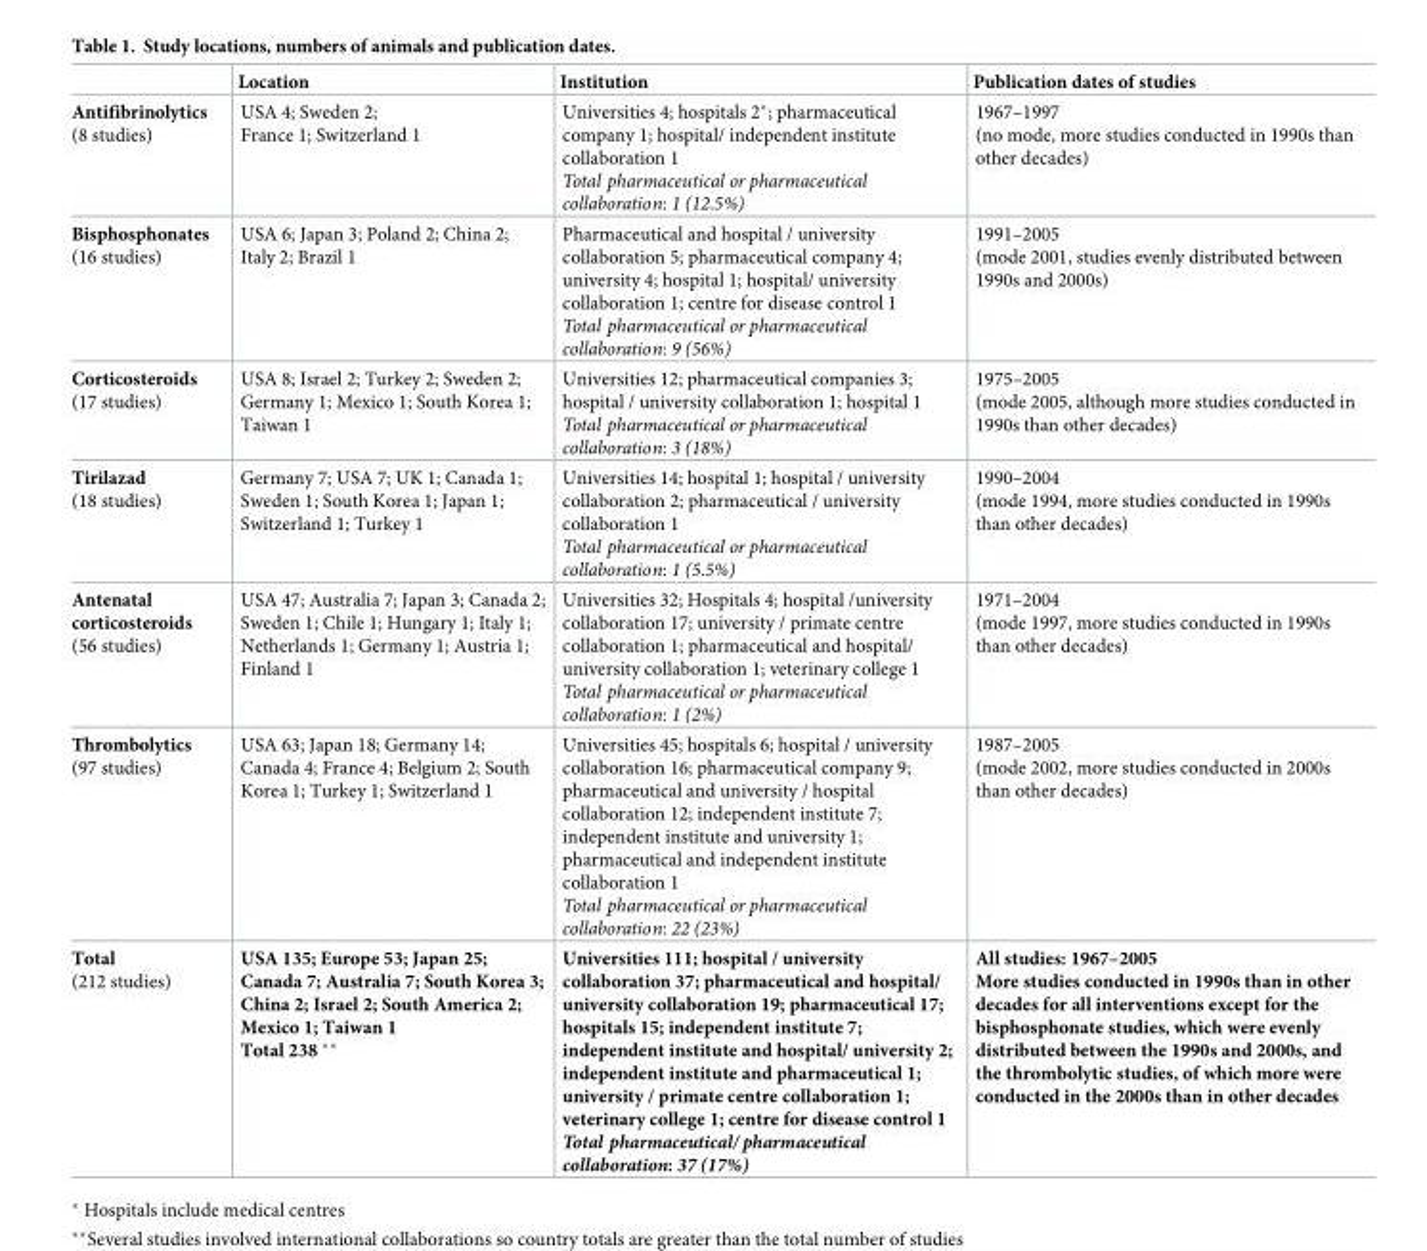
<table><thead><tr><td></td><td>Location</td><td>Institution</td><td>Publication dates of studies</td></tr></thead><tbody><tr><td>Antifibrinolytics (8 studies)</td><td>USA 4; Sweden 2; France 1; Switzerland 1</td><td>Universities 4; hospitals 2*; pharmaceutical company 1; hospital/ independent institute collaboration 1 Total pharmaceutical or pharmaceutical collaboration: 1 (12.5%)</td><td>1967–1997 (no mode, more studies conducted in 1990s than other decades)</td></tr><tr><td>Bisphosphonates (16 studies)</td><td>USA 6; Japan 3; Poland 2; China 2; Italy 2; Brazil 1</td><td>Pharmaceutical and hospital / university collaboration 5; pharmaceutical company 4; university 4; hospital 1; hospital/ university collaboration 1; centre for disease control 1 Total pharmaceutical or pharmaceutical collaboration: 9 (56%)</td><td>1991–2005 (mode 2001, studies evenly distributed between 1990s and 2000s)</td></tr><tr><td>Corticosteroids (17 studies)</td><td>USA 8; Israel 2; Turkey 2; Sweden 2; Germany 1; Mexico 1; South Korea 1; Taiwan 1</td><td>Universities 12; pharmaceutical companies 3; hospital / university collaboration 1; hospital 1 Total pharmaceutical or pharmaceutical collaboration: 3 (18%)</td><td>1975–2005 (mode 2005, although more studies conducted in 1990s than other decades)</td></tr><tr><td>Tirilazad (18 studies)</td><td>Germany 7; USA 7; UK 1; Canada 1; Sweden 1; South Korea 1; Japan 1; Switzerland 1; Turkey 1</td><td>Universities 14; hospital 1; hospital / university collaboration 2; pharmaceutical / university collaboration 1 Total pharmaceutical or pharmaceutical collaboration: 1 (5.5%)</td><td>1990–2004 (mode 1994, more studies conducted in 1990s than other decades)</td></tr><tr><td>Antenatal corticosteroids (56 studies)</td><td>USA 47; Australia 7; Japan 3; Canada 2; Sweden 1; Chile 1; Hungary 1; Italy 1; Netherlands 1; Germany 1; Austria 1; Finland 1</td><td>Universities 32; Hospitals 4; hospital /university collaboration 17; university / primate centre collaboration 1; pharmaceutical and hospital/ university collaboration 1; veterinary college 1 Total pharmaceutical or pharmaceutical collaboration: 1 (2%)</td><td>1971–2004 (mode 1997, more studies conducted in 1990s than other decades)</td></tr><tr><td>Thrombolytics (97 studies)</td><td>USA 63; Japan 18; Germany 14; Canada 4; France 4; Belgium 2; South Korea 1; Turkey 1; Switzerland 1</td><td>Universities 45; hospitals 6; hospital / university collaboration 16; pharmaceutical company 9; pharmaceutical and university / hospital collaboration 12; independent institute 7; independent institute and university 1; pharmaceutical and independent institute collaboration 1 Total pharmaceutical or pharmaceutical collaboration: 22 (23%)</td><td>1987–2005 (mode 2002, more studies conducted in 2000s than other decades)</td></tr><tr><td>Total (212 studies)</td><td>USA 135; Europe 53; Japan 25; Canada 7; Australia 7; South Korea 3; China 2; Israel 2; South America 2; Mexico 1; Taiwan 1 Total 238 **</td><td>Universities 111; hospital / university collaboration 37; pharmaceutical and hospital/ university collaboration 19; pharmaceutical 17; hospitals 15; independent institute 7; independent institute and hospital/ university 2; independent institute and pharmaceutical 1; university / primate centre collaboration 1; veterinary college 1; centre for disease control 1 Total pharmaceutical/ pharmaceutical collaboration: 37 (17%)</td><td>All studies: 1967–2005 More studies conducted in 1990s than in other decades for all interventions except for the bisphosphonate studies, which were evenly distributed between the 1990s and 2000s, and the thrombolytic studies, of which more were conducted in the 2000s than in other decades</td></tr></tbody></table>